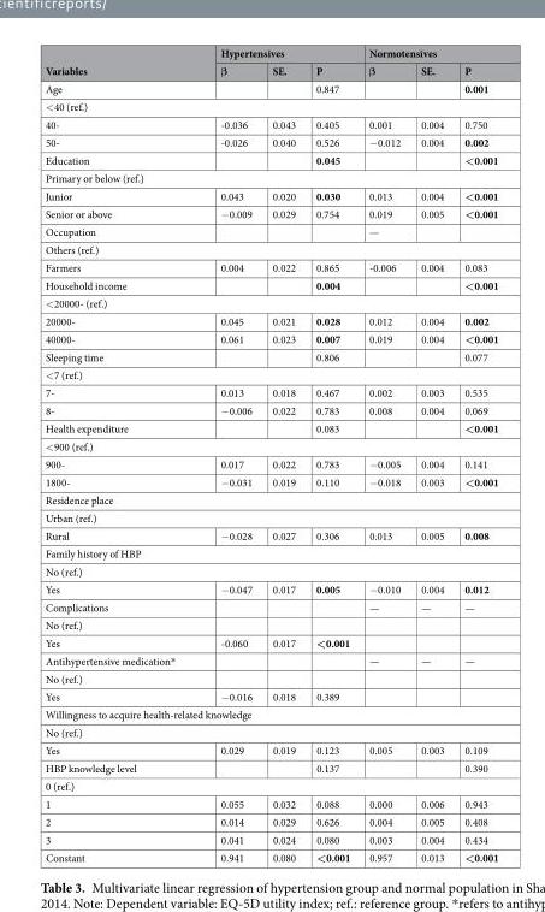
<table><thead><tr><td rowspan="2">Variables</td><td colspan="3">Hypertensives</td><td colspan="3">Normotensives</td></tr><tr><td>β</td><td>SE.</td><td>P</td><td>β</td><td>SE.</td><td>P</td></tr></thead><tbody><tr><td>Age</td><td></td><td></td><td>0.847</td><td></td><td></td><td>0.001</td></tr><tr><td colspan="7">&lt;40 (ref.)</td></tr><tr><td>40-</td><td>-0.036</td><td>0.043</td><td>0.405</td><td>0.001</td><td>0.004</td><td>0.750</td></tr><tr><td>50-</td><td>-0.026</td><td>0.040</td><td>0.526</td><td>−0.012</td><td>0.004</td><td>0.002</td></tr><tr><td>Education</td><td></td><td></td><td>0.045</td><td></td><td></td><td>&lt;0.001</td></tr><tr><td colspan="7">Primary or below (ref.)</td></tr><tr><td>Junior</td><td>0.043</td><td>0.020</td><td>0.030</td><td>0.013</td><td>0.004</td><td>&lt;0.001</td></tr><tr><td>Senior or above</td><td>−0.009</td><td>0.029</td><td>0.754</td><td>0.019</td><td>0.005</td><td>&lt;0.001</td></tr><tr><td>Occupation</td><td></td><td></td><td></td><td>—</td><td></td><td></td></tr><tr><td colspan="7">Others (ref.)</td></tr><tr><td>Farmers</td><td>0.004</td><td>0.022</td><td>0.865</td><td>-0.006</td><td>0.004</td><td>0.083</td></tr><tr><td>Household income</td><td></td><td></td><td>0.004</td><td></td><td></td><td>&lt;0.001</td></tr><tr><td colspan="7">&lt;20000- (ref.)</td></tr><tr><td>20000-</td><td>0.045</td><td>0.021</td><td>0.028</td><td>0.012</td><td>0.004</td><td>0.002</td></tr><tr><td>40000-</td><td>0.061</td><td>0.023</td><td>0.007</td><td>0.019</td><td>0.004</td><td>&lt;0.001</td></tr><tr><td>Sleeping time</td><td></td><td></td><td>0.806</td><td></td><td></td><td>0.077</td></tr><tr><td colspan="7">&lt;7 (ref.)</td></tr><tr><td>7-</td><td>0.013</td><td>0.018</td><td>0.467</td><td>0.002</td><td>0.003</td><td>0.535</td></tr><tr><td>8-</td><td>−0.006</td><td>0.022</td><td>0.783</td><td>0.008</td><td>0.004</td><td>0.069</td></tr><tr><td>Health expenditure</td><td></td><td></td><td>0.083</td><td></td><td></td><td>&lt;0.001</td></tr><tr><td colspan="7">&lt;900 (ref.)</td></tr><tr><td>900-</td><td>0.017</td><td>0.022</td><td>0.783</td><td>−0.005</td><td>0.004</td><td>0.141</td></tr><tr><td>1800-</td><td>−0.031</td><td>0.019</td><td>0.110</td><td>−0.018</td><td>0.003</td><td>&lt;0.001</td></tr><tr><td colspan="7">Residence place</td></tr><tr><td colspan="7">Urban (ref.)</td></tr><tr><td>Rural</td><td>−0.028</td><td>0.027</td><td>0.306</td><td>0.013</td><td>0.005</td><td>0.008</td></tr><tr><td colspan="7">Family history of HBP</td></tr><tr><td colspan="7">No (ref.)</td></tr><tr><td>Yes</td><td>−0.047</td><td>0.017</td><td>0.005</td><td>−0.010</td><td>0.004</td><td>0.012</td></tr><tr><td>Complications</td><td></td><td></td><td></td><td>—</td><td>—</td><td>—</td></tr><tr><td colspan="7">No (ref.)</td></tr><tr><td>Yes</td><td>-0.060</td><td>0.017</td><td>&lt;0.001</td><td></td><td></td><td></td></tr><tr><td>Antihypertensive medication*</td><td></td><td></td><td></td><td>—</td><td>—</td><td>—</td></tr><tr><td colspan="7">No (ref.)</td></tr><tr><td>Yes</td><td>−0.016</td><td>0.018</td><td>0.389</td><td></td><td></td><td></td></tr><tr><td colspan="7">Willingness to acquire health-related knowledge</td></tr><tr><td colspan="7">No (ref.)</td></tr><tr><td>Yes</td><td>0.029</td><td>0.019</td><td>0.123</td><td>0.005</td><td>0.003</td><td>0.109</td></tr><tr><td>HBP knowledge level</td><td></td><td></td><td>0.137</td><td></td><td></td><td>0.390</td></tr><tr><td colspan="7">0 (ref.)</td></tr><tr><td>1</td><td>0.055</td><td>0.032</td><td>0.088</td><td>0.000</td><td>0.006</td><td>0.943</td></tr><tr><td>2</td><td>0.014</td><td>0.029</td><td>0.626</td><td>0.004</td><td>0.005</td><td>0.408</td></tr><tr><td>3</td><td>0.041</td><td>0.024</td><td>0.080</td><td>0.003</td><td>0.004</td><td>0.434</td></tr><tr><td>Constant</td><td>0.941</td><td>0.080</td><td>&lt;0.001</td><td>0.957</td><td>0.013</td><td>&lt;0.001</td></tr></tbody></table>